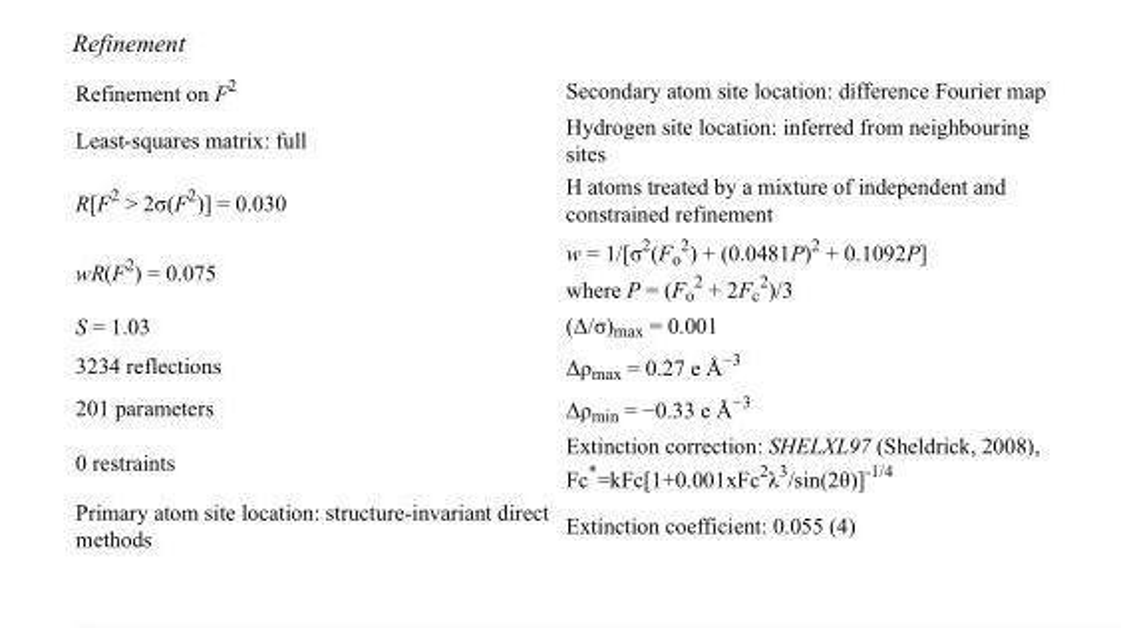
<table><tbody><tr><td>Refinement on F<sup>2</sup></td><td>Secondary atom site location: difference Fourier map</td></tr><tr><td>Least-squares matrix: full</td><td>Hydrogen site location: inferred from neighbouring sites</td></tr><tr><td>R[F<sup>2</sup> &gt; 2σ(F<sup>2</sup>)] = 0.030</td><td>H atoms treated by a mixture of independent and constrained refinement</td></tr><tr><td>wR(F<sup>2</sup>) = 0.075</td><td>w = 1/[σ<sup>2</sup>(F<sub>o</sub> <sup>2</sup>) + (0.0481P)<sup>2</sup> + 0.1092P] where P = (F<sub>o</sub> <sup>2</sup> + 2F<sub>c</sub> <sup>2</sup>)/3</td></tr><tr><td>S = 1.03</td><td>(Δ/σ)<sub>max</sub> = 0.001</td></tr><tr><td>3234 reflections</td><td>Δρ<sub>max</sub> = 0.27 e Å<sup>−3</sup></td></tr><tr><td>201 parameters</td><td>Δρ<sub>min</sub> = −0.33 e Å<sup>−3</sup></td></tr><tr><td>0 restraints</td><td>Extinction correction: SHELXL97 (Sheldrick, 2008), Fc*=kFc[1+0.001xFc<sup>2</sup>λ<sup>3</sup>/sin(2θ)]<sup>-1/4</sup></td></tr><tr><td>Primary atom site location: structure-invariant direct methods</td><td>Extinction coefficient: 0.055 (4)</td></tr></tbody></table>